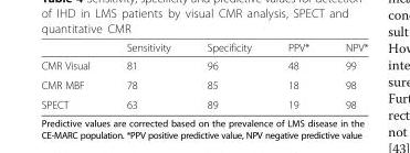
<table><thead><tr><td></td><td>Sensitivity</td><td>Specificity</td><td>PPV*</td><td>NPV*</td></tr></thead><tbody><tr><td>CMR Visual</td><td>81</td><td>96</td><td>48</td><td>99</td></tr><tr><td>CMR MBF</td><td>78</td><td>85</td><td>18</td><td>98</td></tr><tr><td>SPECT</td><td>63</td><td>89</td><td>19</td><td>98</td></tr></tbody></table>